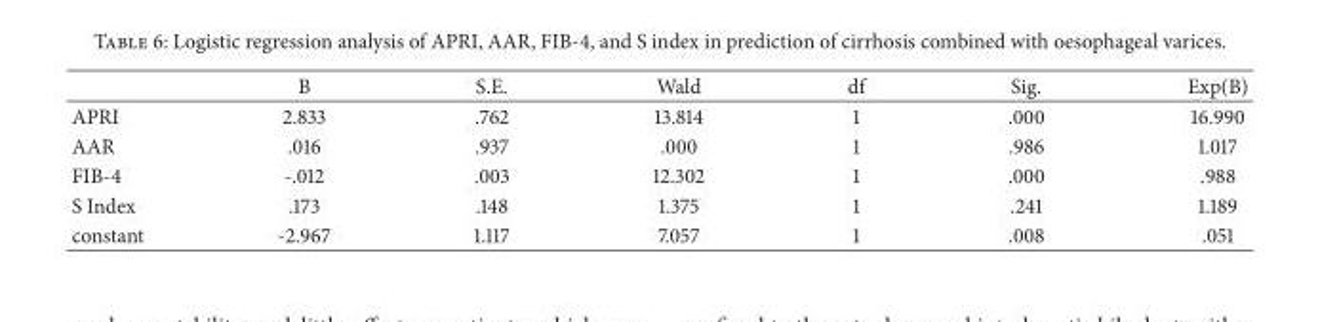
<table><thead><tr><td></td><td>B</td><td>S.E.</td><td>Wald</td><td>df</td><td>Sig.</td><td>Exp(B)</td></tr></thead><tbody><tr><td>APRI</td><td>2.833</td><td>.762</td><td>13.814</td><td>1</td><td>.000</td><td>16.990</td></tr><tr><td>AAR</td><td>.016</td><td>.937</td><td>.000</td><td>1</td><td>.986</td><td>1.017</td></tr><tr><td>FIB-4</td><td>-.012</td><td>.003</td><td>12.302</td><td>1</td><td>.000</td><td>.988</td></tr><tr><td>S Index</td><td>.173</td><td>.148</td><td>1.375</td><td>1</td><td>.241</td><td>1.189</td></tr><tr><td>constant</td><td>-2.967</td><td>1.117</td><td>7.057</td><td>1</td><td>.008</td><td>.051</td></tr></tbody></table>